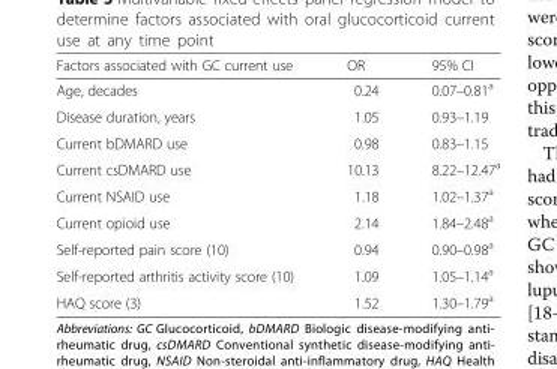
<table><thead><tr><td>Factors associated with GC current use</td><td>OR</td><td>95% CI</td></tr></thead><tbody><tr><td>Age, decades</td><td>0.24</td><td>0.07–0.81<sup>a</sup></td></tr><tr><td>Disease duration, years</td><td>1.05</td><td>0.93–1.19</td></tr><tr><td>Current bDMARD use</td><td>0.98</td><td>0.83–1.15</td></tr><tr><td>Current csDMARD use</td><td>10.13</td><td>8.22–12.47<sup>a</sup></td></tr><tr><td>Current NSAID use</td><td>1.18</td><td>1.02–1.37<sup>a</sup></td></tr><tr><td>Current opioid use</td><td>2.14</td><td>1.84–2.48<sup>a</sup></td></tr><tr><td>Self-reported pain score (10)</td><td>0.94</td><td>0.90–0.98<sup>a</sup></td></tr><tr><td>Self-reported arthritis activity score (10)</td><td>1.09</td><td>1.05–1.14<sup>a</sup></td></tr><tr><td>HAQ score (3)</td><td>1.52</td><td>1.30–1.79<sup>a</sup></td></tr></tbody></table>